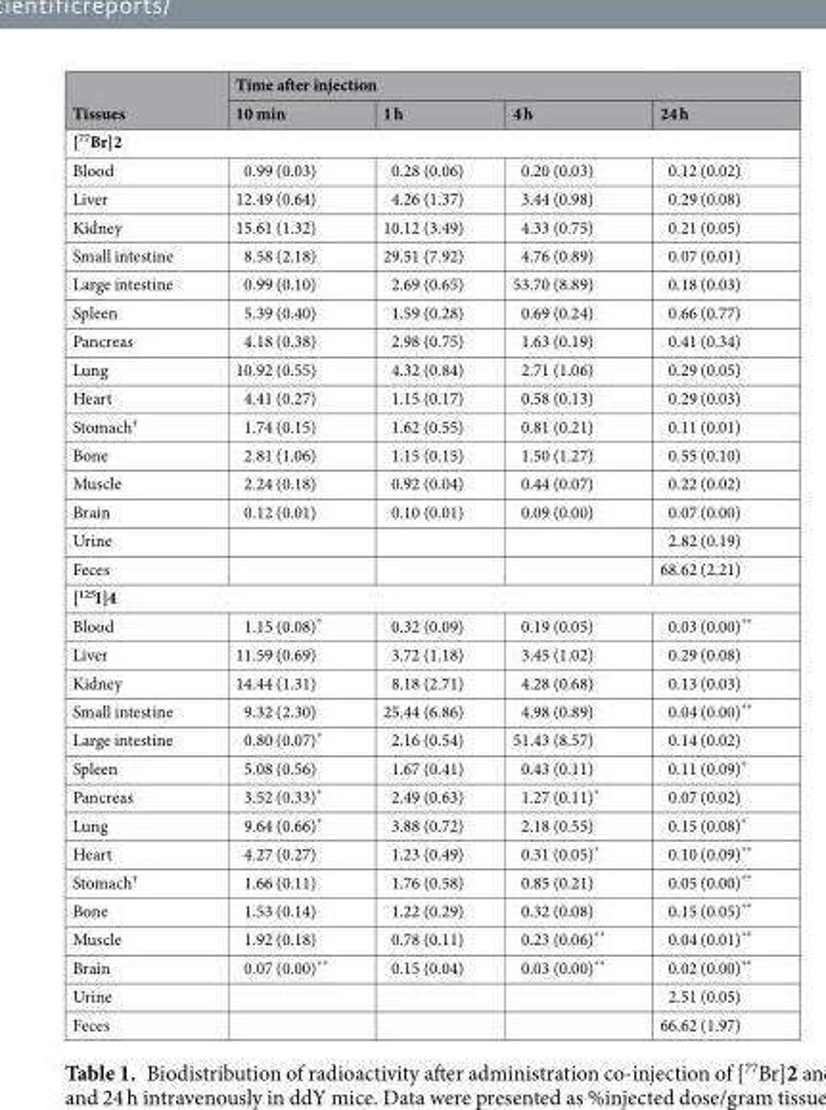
<table><thead><tr><td rowspan="2">Tissues</td><td colspan="4">Time after injection</td></tr><tr><td>10 min</td><td>1 h</td><td>4 h</td><td>24 h</td></tr></thead><tbody><tr><td colspan="5">[<sup>77</sup>Br]2</td></tr><tr><td>Blood</td><td>0.99 (0.03)</td><td>0.28 (0.06)</td><td>0.20 (0.03)</td><td>0.12 (0.02)</td></tr><tr><td>Liver</td><td>12.49 (0.64)</td><td>4.26 (1.37)</td><td>3.44 (0.98)</td><td>0.29 (0.08)</td></tr><tr><td>Kidney</td><td>15.61 (1.32)</td><td>10.12 (3.49)</td><td>4.33 (0.75)</td><td>0.21 (0.05)</td></tr><tr><td>Small intestine</td><td>8.58 (2.18)</td><td>29.51 (7.92)</td><td>4.76 (0.89)</td><td>0.07 (0.01)</td></tr><tr><td>Large intestine</td><td>0.99 (0.10)</td><td>2.69 (0.65)</td><td>53.70 (8.89)</td><td>0.18 (0.03)</td></tr><tr><td>Spleen</td><td>5.39 (0.40)</td><td>1.59 (0.28)</td><td>0.69 (0.24)</td><td>0.66 (0.77)</td></tr><tr><td>Pancreas</td><td>4.18 (0.38)</td><td>2.98 (0.75)</td><td>1.63 (0.19)</td><td>0.41 (0.34)</td></tr><tr><td>Lung</td><td>10.92 (0.55)</td><td>4.32 (0.84)</td><td>2.71 (1.06)</td><td>0.29 (0.05)</td></tr><tr><td>Heart</td><td>4.41 (0.27)</td><td>1.15 (0.17)</td><td>0.58 (0.13)</td><td>0.29 (0.03)</td></tr><tr><td>Stomach<sup>†</sup></td><td>1.74 (0.15)</td><td>1.62 (0.55)</td><td>0.81 (0.21)</td><td>0.11 (0.01)</td></tr><tr><td>Bone</td><td>2.81 (1.06)</td><td>1.15 (0.15)</td><td>1.50 (1.27)</td><td>0.55 (0.10)</td></tr><tr><td>Muscle</td><td>2.24 (0.18)</td><td>0.92 (0.04)</td><td>0.44 (0.07)</td><td>0.22 (0.02)</td></tr><tr><td>Brain</td><td>0.12 (0.01)</td><td>0.10 (0.01)</td><td>0.09 (0.00)</td><td>0.07 (0.00)</td></tr><tr><td>Urine</td><td></td><td></td><td></td><td>2.82 (0.19)</td></tr><tr><td>Feces</td><td></td><td></td><td></td><td>68.62 (2.21)</td></tr><tr><td colspan="5">[<sup>125</sup>I]4</td></tr><tr><td>Blood</td><td>1.15 (0.08)*</td><td>0.32 (0.09)</td><td>0.19 (0.05)</td><td>0.03 (0.00)**</td></tr><tr><td>Liver</td><td>11.59 (0.69)</td><td>3.72 (1.18)</td><td>3.45 (1.02)</td><td>0.29 (0.08)</td></tr><tr><td>Kidney</td><td>14.44 (1.31)</td><td>8.18 (2.71)</td><td>4.28 (0.68)</td><td>0.13 (0.03)</td></tr><tr><td>Small intestine</td><td>9.32 (2.30)</td><td>25.44 (6.86)</td><td>4.98 (0.89)</td><td>0.04 (0.00)**</td></tr><tr><td>Large intestine</td><td>0.80 (0.07)*</td><td>2.16 (0.54)</td><td>51.43 (8.57)</td><td>0.14 (0.02)</td></tr><tr><td>Spleen</td><td>5.08 (0.56)</td><td>1.67 (0.41)</td><td>0.43 (0.11)</td><td>0.11 (0.09)*</td></tr><tr><td>Pancreas</td><td>3.52 (0.33)*</td><td>2.49 (0.63)</td><td>1.27 (0.11)*</td><td>0.07 (0.02)</td></tr><tr><td>Lung</td><td>9.64 (0.66)*</td><td>3.88 (0.72)</td><td>2.18 (0.55)</td><td>0.15 (0.08)*</td></tr><tr><td>Heart</td><td>4.27 (0.27)</td><td>1.23 (0.49)</td><td>0.31 (0.05)*</td><td>0.10 (0.09)**</td></tr><tr><td>Stomach<sup>†</sup></td><td>1.66 (0.11)</td><td>1.76 (0.58)</td><td>0.85 (0.21)</td><td>0.05 (0.00)**</td></tr><tr><td>Bone</td><td>1.53 (0.14)</td><td>1.22 (0.29)</td><td>0.32 (0.08)</td><td>0.15 (0.05)**</td></tr><tr><td>Muscle</td><td>1.92 (0.18)</td><td>0.78 (0.11)</td><td>0.23 (0.06)**</td><td>0.04 (0.01)**</td></tr><tr><td>Brain</td><td>0.07 (0.00)**</td><td>0.15 (0.04)</td><td>0.03 (0.00)**</td><td>0.02 (0.00)**</td></tr><tr><td>Urine</td><td></td><td></td><td></td><td>2.51 (0.05)</td></tr><tr><td>Feces</td><td></td><td></td><td></td><td>66.62 (1.97)</td></tr></tbody></table>